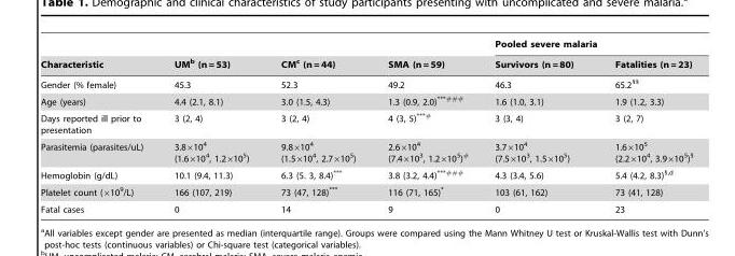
<table><thead><tr><td rowspan="2">Characteristic</td><td rowspan="2">UM<sup>b</sup> (n = 53)</td><td rowspan="2">CM<sup>c</sup> (n = 44)</td><td rowspan="2">SMA (n = 59)</td><td colspan="2">Pooled severe malaria</td></tr><tr><td>Survivors (n = 80)</td><td>Fatalities (n = 23)</td></tr></thead><tbody><tr><td>Gender (% female)</td><td>45.3</td><td>52.3</td><td>49.2</td><td>46.3</td><td>65.2§§</td></tr><tr><td>Age (years)</td><td>4.4 (2.1, 8.1)</td><td>3.0 (1.5, 4.3)</td><td>1.3 (0.9, 2.0)***###</td><td>1.6 (1.0, 3.1)</td><td>1.9 (1.2, 3.3)</td></tr><tr><td>Days reported ill prior to presentation</td><td>3 (2, 4)</td><td>3 (2, 4)</td><td>4 (3, 5)***#</td><td>3 (3, 4)</td><td>3 (2, 7)</td></tr><tr><td>Parasitemia (parasites/uL)</td><td>3.8×10<sup>4</sup> (1.6×10<sup>4</sup>, 1.2×10<sup>5</sup>)</td><td>9.8×10<sup>4</sup> (1.5×10<sup>4</sup>, 2.7×10<sup>5</sup>)</td><td>2.6×10<sup>4</sup> (7.4×10<sup>3</sup>, 1.2×10<sup>5</sup>)#</td><td>3.7×10<sup>4</sup> (7.5×10<sup>3</sup>, 1.5×10<sup>5</sup>)</td><td>1.6×10<sup>5</sup> (2.2×10<sup>4</sup>, 3.9×10<sup>5</sup>)§</td></tr><tr><td>Hemoglobin (g/dL)</td><td>10.1 (9.4, 11.3)</td><td>6.3 (5. 3, 8.4)***</td><td>3.8 (3.2, 4.4)***###</td><td>4.3 (3.4, 5.6)</td><td>5.4 (4.2, 8.3)§<sup>,</sup>d</td></tr><tr><td>Platelet count (×10<sup>9</sup>/L)</td><td>166 (107, 219)</td><td>73 (47, 128)***</td><td>116 (71, 165)*</td><td>103 (61, 162)</td><td>73 (41, 128)</td></tr><tr><td>Fatal cases</td><td>0</td><td>14</td><td>9</td><td>0</td><td>23</td></tr></tbody></table>